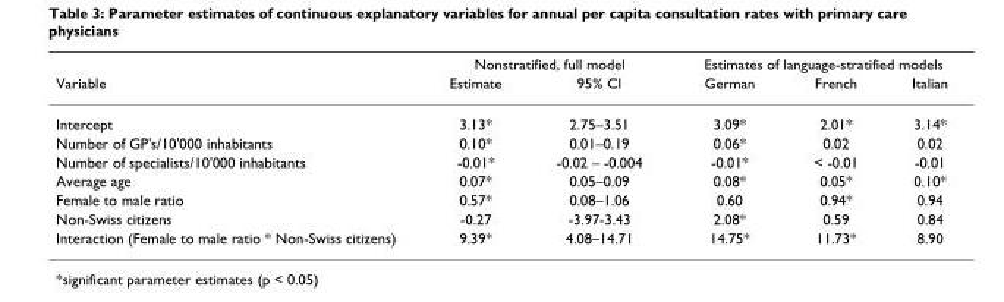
<table><thead><tr><td rowspan="2">Variable</td><td colspan="2">Nonstratified, full model</td><td colspan="3">Estimates of language-stratified models</td></tr><tr><td>Estimate</td><td>95% CI</td><td>German</td><td>French</td><td>Italian</td></tr></thead><tbody><tr><td>Intercept</td><td>3.13*</td><td>2.75–3.51</td><td>3.09*</td><td>2.01*</td><td>3.14*</td></tr><tr><td>Number of GP&#x27;s/10&#x27;000 inhabitants</td><td>0.10*</td><td>0.01–0.19</td><td>0.06*</td><td>0.02</td><td>0.02</td></tr><tr><td>Number of specialists/10&#x27;000 inhabitants</td><td>-0.01*</td><td>-0.02 – -0.004</td><td>-0.01*</td><td>&lt; -0.01</td><td>-0.01</td></tr><tr><td>Average age</td><td>0.07*</td><td>0.05–0.09</td><td>0.08*</td><td>0.05*</td><td>0.10*</td></tr><tr><td>Female to male ratio</td><td>0.57*</td><td>0.08–1.06</td><td>0.60</td><td>0.94*</td><td>0.94</td></tr><tr><td>Non-Swiss citizens</td><td>-0.27</td><td>-3.97-3.43</td><td>2.08*</td><td>0.59</td><td>0.84</td></tr><tr><td>Interaction (Female to male ratio * Non-Swiss citizens)</td><td>9.39*</td><td>4.08–14.71</td><td>14.75*</td><td>11.73*</td><td>8.90</td></tr></tbody></table>